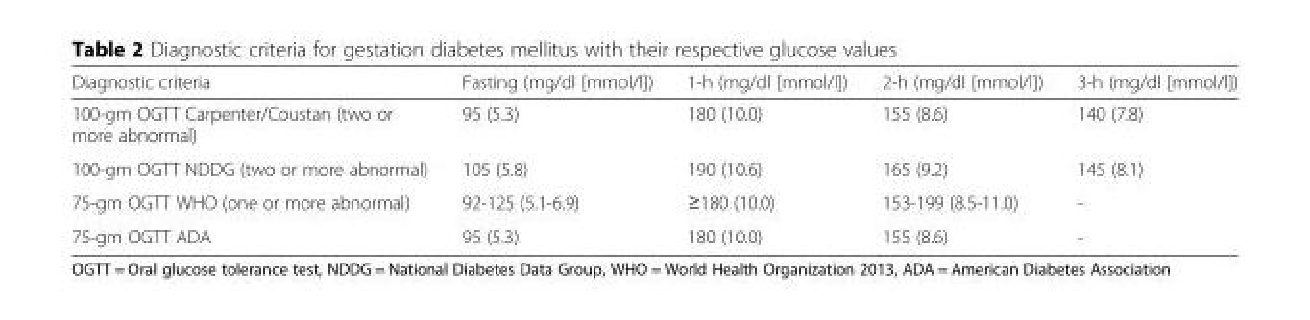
<table><thead><tr><td>Diagnostic criteria</td><td>Fasting (mg/dl [mmol/l])</td><td>1-h (mg/dl [mmol/l])</td><td>2-h (mg/dl [mmol/l])</td><td>3-h (mg/dl [mmol/l])</td></tr></thead><tbody><tr><td>100-gm OGTT Carpenter/Coustan (two or more abnormal)</td><td>95 (5.3)</td><td>180 (10.0)</td><td>155 (8.6)</td><td>140 (7.8)</td></tr><tr><td>100-gm OGTT NDDG (two or more abnormal)</td><td>105 (5.8)</td><td>190 (10.6)</td><td>165 (9.2)</td><td>145 (8.1)</td></tr><tr><td>75-gm OGTT WHO (one or more abnormal)</td><td>92-125 (5.1-6.9)</td><td>≥180 (10.0)</td><td>153-199 (8.5-11.0)</td><td>-</td></tr><tr><td>75-gm OGTT ADA</td><td>95 (5.3)</td><td>180 (10.0)</td><td>155 (8.6)</td><td>-</td></tr></tbody></table>